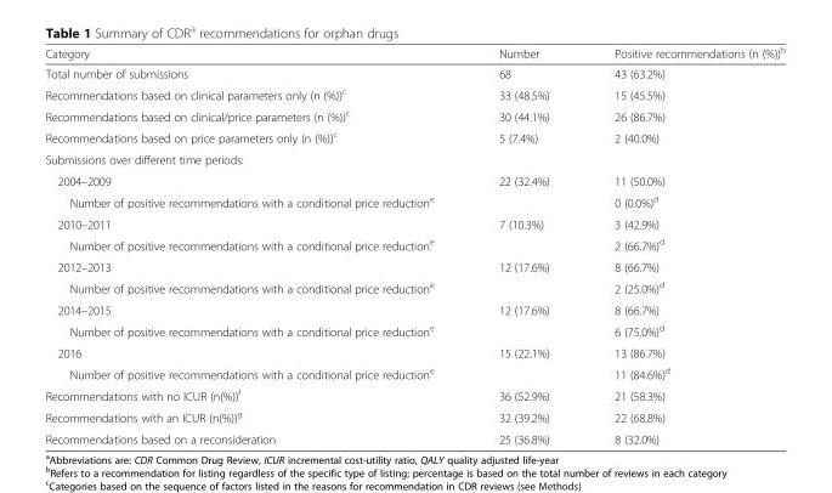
<table><thead><tr><td>Category</td><td>Number</td><td>Positive recommendations (n (%))<sup>b</sup></td></tr></thead><tbody><tr><td>Total number of submissions</td><td>68</td><td>43 (63.2%)</td></tr><tr><td>Recommendations based on clinical parameters only (n (%))<sup>c</sup></td><td>33 (48.5%)</td><td>15 (45.5%)</td></tr><tr><td>Recommendations based on clinical/price parameters (n (%))<sup>c</sup></td><td>30 (44.1%)</td><td>26 (86.7%)</td></tr><tr><td>Recommendations based on price parameters only (n (%))<sup>c</sup></td><td>5 (7.4%)</td><td>2 (40.0%)</td></tr><tr><td colspan="3">Submissions over different time periods:</td></tr><tr><td>2004–2009</td><td>22 (32.4%)</td><td>11 (50.0%)</td></tr><tr><td>Number of positive recommendations with a conditional price reduction<sup>e</sup></td><td></td><td>0 (0.0%)<sup>d</sup></td></tr><tr><td>2010–2011</td><td>7 (10.3%)</td><td>3 (42.9%)</td></tr><tr><td>Number of positive recommendations with a conditional price reduction<sup>e</sup></td><td></td><td>2 (66.7%)<sup>d</sup></td></tr><tr><td>2012–2013</td><td>12 (17.6%)</td><td>8 (66.7%)</td></tr><tr><td>Number of positive recommendations with a conditional price reduction<sup>e</sup></td><td></td><td>2 (25.0%)<sup>d</sup></td></tr><tr><td>2014–2015</td><td>12 (17.6%)</td><td>8 (66.7%)</td></tr><tr><td>Number of positive recommendations with a conditional price reduction<sup>e</sup></td><td></td><td>6 (75.0%)<sup>d</sup></td></tr><tr><td>2016</td><td>15 (22.1%)</td><td>13 (86.7%)</td></tr><tr><td>Number of positive recommendations with a conditional price reduction<sup>e</sup></td><td></td><td>11 (84.6%)<sup>d</sup></td></tr><tr><td>Recommendations with no ICUR (n(%))<sup>f</sup></td><td>36 (52.9%)</td><td>21 (58.3%)</td></tr><tr><td>Recommendations with an ICUR (n(%))<sup>g</sup></td><td>32 (39.2%)</td><td>22 (68.8%)</td></tr><tr><td>Recommendations based on a reconsideration</td><td>25 (36.8%)</td><td>8 (32.0%)</td></tr></tbody></table>